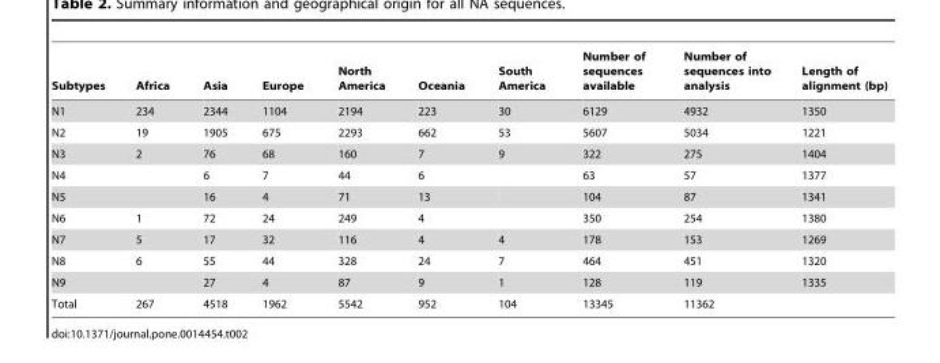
<table><thead><tr><td>Subtypes</td><td>Africa</td><td>Asia</td><td>Europe</td><td>North America</td><td>Oceania</td><td>South America</td><td>Number of sequences available</td><td>Number of sequences into analysis</td><td>Length of alignment (bp)</td></tr></thead><tbody><tr><td>N1</td><td>234</td><td>2344</td><td>1104</td><td>2194</td><td>223</td><td>30</td><td>6129</td><td>4932</td><td>1350</td></tr><tr><td>N2</td><td>19</td><td>1905</td><td>675</td><td>2293</td><td>662</td><td>53</td><td>5607</td><td>5034</td><td>1221</td></tr><tr><td>N3</td><td>2</td><td>76</td><td>68</td><td>160</td><td>7</td><td>9</td><td>322</td><td>275</td><td>1404</td></tr><tr><td>N4</td><td></td><td>6</td><td>7</td><td>44</td><td>6</td><td></td><td>63</td><td>57</td><td>1377</td></tr><tr><td>N5</td><td></td><td>16</td><td>4</td><td>71</td><td>13</td><td></td><td>104</td><td>87</td><td>1341</td></tr><tr><td>N6</td><td>1</td><td>72</td><td>24</td><td>249</td><td>4</td><td></td><td>350</td><td>254</td><td>1380</td></tr><tr><td>N7</td><td>5</td><td>17</td><td>32</td><td>116</td><td>4</td><td>4</td><td>178</td><td>153</td><td>1269</td></tr><tr><td>N8</td><td>6</td><td>55</td><td>44</td><td>328</td><td>24</td><td>7</td><td>464</td><td>451</td><td>1320</td></tr><tr><td>N9</td><td></td><td>27</td><td>4</td><td>87</td><td>9</td><td>1</td><td>128</td><td>119</td><td>1335</td></tr><tr><td>Total</td><td>267</td><td>4518</td><td>1962</td><td>5542</td><td>952</td><td>104</td><td>13345</td><td>11362</td><td></td></tr></tbody></table>